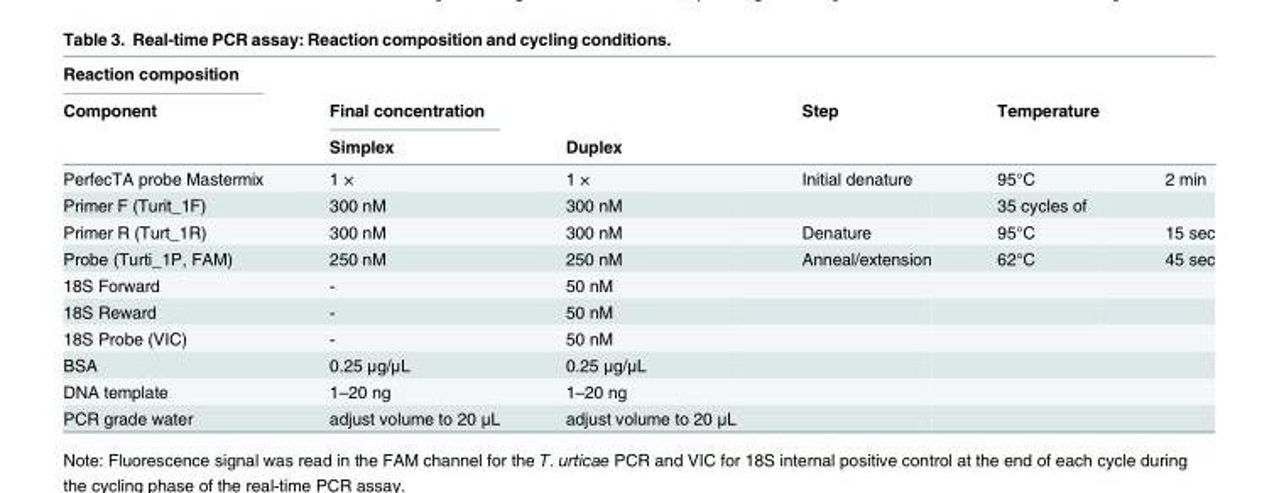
<table><thead><tr><td rowspan="3">Reaction composition Component</td><td rowspan="3">Final concentration Simplex</td><td rowspan="3">Duplex</td><td rowspan="3">Step</td><td rowspan="3">Temperature</td><td rowspan="3"></td></tr><tr></tr><tr></tr></thead><tbody><tr><td>PerfecTA probe Mastermix</td><td>1 ×</td><td>1 ×</td><td>Initial denature</td><td>95°C</td><td>2 min</td></tr><tr><td>Primer F (Turit_1F)</td><td>300 nM</td><td>300 nM</td><td></td><td>35 cycles of</td><td></td></tr><tr><td>Primer R (Turt_1R)</td><td>300 nM</td><td>300 nM</td><td>Denature</td><td>95°C</td><td>15 sec</td></tr><tr><td>Probe (Turti_1P, FAM)</td><td>250 nM</td><td>250 nM</td><td>Anneal/extension</td><td>62°C</td><td>45 sec</td></tr><tr><td>18S Forward</td><td>-</td><td>50 nM</td><td></td><td></td><td></td></tr><tr><td>18S Reward</td><td>-</td><td>50 nM</td><td></td><td></td><td></td></tr><tr><td>18S Probe (VIC)</td><td>-</td><td>50 nM</td><td></td><td></td><td></td></tr><tr><td>BSA</td><td>0.25 μg/μL</td><td>0.25 μg/μL</td><td></td><td colspan="2"></td></tr><tr><td>DNA template</td><td>1–20 ng</td><td>1–20 ng</td><td></td><td colspan="2"></td></tr><tr><td>PCR grade water</td><td>adjust volume to 20 μL</td><td>adjust volume to 20 μL</td><td></td><td colspan="2"></td></tr></tbody></table>